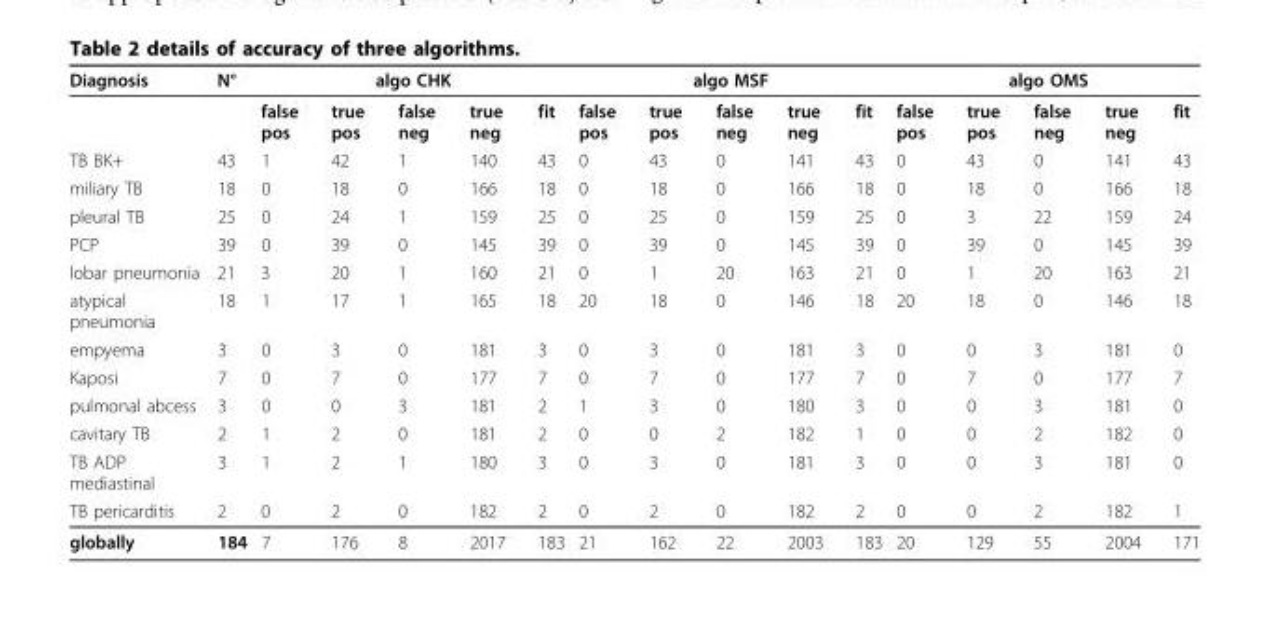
<table><thead><tr><td rowspan="2">Diagnosis</td><td rowspan="2">N°</td><td colspan="5">algo CHK</td><td colspan="5">algo MSF</td><td colspan="5">algo OMS</td></tr><tr><td>false pos</td><td>true pos</td><td>false neg</td><td>true neg</td><td>fit</td><td>false pos</td><td>true pos</td><td>false neg</td><td>true neg</td><td>fit</td><td>false pos</td><td>true pos</td><td>false neg</td><td>true neg</td><td>fit</td></tr></thead><tbody><tr><td>TB BK+</td><td>43</td><td>1</td><td>42</td><td>1</td><td>140</td><td>43</td><td>0</td><td>43</td><td>0</td><td>141</td><td>43</td><td>0</td><td>43</td><td>0</td><td>141</td><td>43</td></tr><tr><td>miliary TB</td><td>18</td><td>0</td><td>18</td><td>0</td><td>166</td><td>18</td><td>0</td><td>18</td><td>0</td><td>166</td><td>18</td><td>0</td><td>18</td><td>0</td><td>166</td><td>18</td></tr><tr><td>pleural TB</td><td>25</td><td>0</td><td>24</td><td>1</td><td>159</td><td>25</td><td>0</td><td>25</td><td>0</td><td>159</td><td>25</td><td>0</td><td>3</td><td>22</td><td>159</td><td>24</td></tr><tr><td>PCP</td><td>39</td><td>0</td><td>39</td><td>0</td><td>145</td><td>39</td><td>0</td><td>39</td><td>0</td><td>145</td><td>39</td><td>0</td><td>39</td><td>0</td><td>145</td><td>39</td></tr><tr><td>lobar pneumonia</td><td>21</td><td>3</td><td>20</td><td>1</td><td>160</td><td>21</td><td>0</td><td>1</td><td>20</td><td>163</td><td>21</td><td>0</td><td>1</td><td>20</td><td>163</td><td>21</td></tr><tr><td>atypical pneumonia</td><td>18</td><td>1</td><td>17</td><td>1</td><td>165</td><td>18</td><td>20</td><td>18</td><td>0</td><td>146</td><td>18</td><td>20</td><td>18</td><td>0</td><td>146</td><td>18</td></tr><tr><td>empyema</td><td>3</td><td>0</td><td>3</td><td>0</td><td>181</td><td>3</td><td>0</td><td>3</td><td>0</td><td>181</td><td>3</td><td>0</td><td>0</td><td>3</td><td>181</td><td>0</td></tr><tr><td>Kaposi</td><td>7</td><td>0</td><td>7</td><td>0</td><td>177</td><td>7</td><td>0</td><td>7</td><td>0</td><td>177</td><td>7</td><td>0</td><td>7</td><td>0</td><td>177</td><td>7</td></tr><tr><td>pulmonal abcess</td><td>3</td><td>0</td><td>0</td><td>3</td><td>181</td><td>2</td><td>1</td><td>3</td><td>0</td><td>180</td><td>3</td><td>0</td><td>0</td><td>3</td><td>181</td><td>0</td></tr><tr><td>cavitary TB</td><td>2</td><td>1</td><td>2</td><td>0</td><td>181</td><td>2</td><td>0</td><td>0</td><td>2</td><td>182</td><td>1</td><td>0</td><td>0</td><td>2</td><td>182</td><td>0</td></tr><tr><td>TB ADP mediastinal</td><td>3</td><td>1</td><td>2</td><td>1</td><td>180</td><td>3</td><td>0</td><td>3</td><td>0</td><td>181</td><td>3</td><td>0</td><td>0</td><td>3</td><td>181</td><td>0</td></tr><tr><td>TB pericarditis</td><td>2</td><td>0</td><td>2</td><td>0</td><td>182</td><td>2</td><td>0</td><td>2</td><td>0</td><td>182</td><td>2</td><td>0</td><td>0</td><td>2</td><td>182</td><td>1</td></tr><tr><td>globally</td><td>184</td><td>7</td><td>176</td><td>8</td><td>2017</td><td>183</td><td>21</td><td>162</td><td>22</td><td>2003</td><td>183</td><td>20</td><td>129</td><td>55</td><td>2004</td><td>171</td></tr></tbody></table>